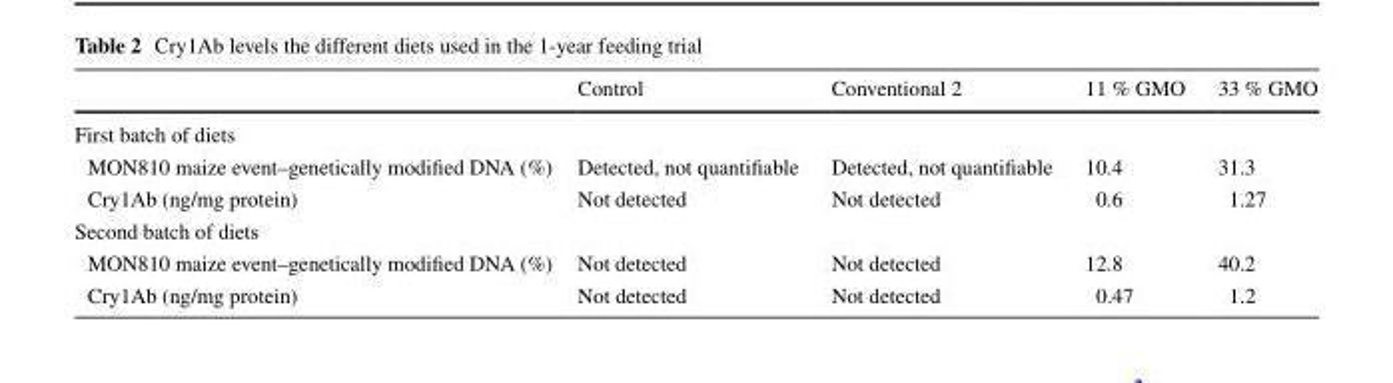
<table><thead><tr><td></td><td>Control</td><td>Conventional 2</td><td>11 % GMO</td><td>33 % GMO</td></tr></thead><tbody><tr><td colspan="5">First batch of diets</td></tr><tr><td>MON810 maize event–genetically modified DNA (%)</td><td>Detected, not quantifiable</td><td>Detected, not quantifiable</td><td>10.4</td><td>31.3</td></tr><tr><td>Cry1Ab (ng/mg protein)</td><td>Not detected</td><td>Not detected</td><td>0.6</td><td>1.27</td></tr><tr><td colspan="5">Second batch of diets</td></tr><tr><td>MON810 maize event–genetically modified DNA (%)</td><td>Not detected</td><td>Not detected</td><td>12.8</td><td>40.2</td></tr><tr><td>Cry1Ab (ng/mg protein)</td><td>Not detected</td><td>Not detected</td><td>0.47</td><td>1.2</td></tr></tbody></table>